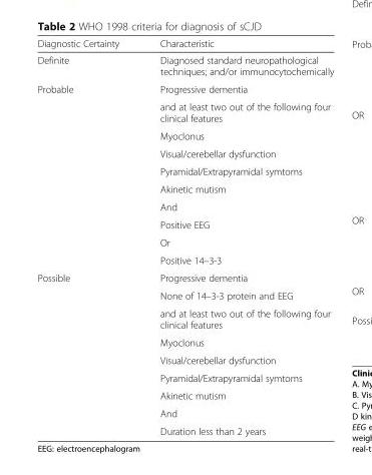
<table><thead><tr><td>Diagnostic Certainty</td><td>Characteristic</td></tr></thead><tbody><tr><td>Definite</td><td>Diagnosed standard neuropathological techniques; and/or immunocytochemically</td></tr><tr><td rowspan="10">Probable</td><td>Progressive dementia</td></tr><tr><td>and at least two out of the following four clinical features</td></tr><tr><td>Myoclonus</td></tr><tr><td>Visual/cerebellar dysfunction</td></tr><tr><td>Pyramidal/Extrapyramidal symtoms</td></tr><tr><td>Akinetic mutism</td></tr><tr><td>And</td></tr><tr><td>Positive EEG</td></tr><tr><td>Or</td></tr><tr><td>Positive 14–3-3</td></tr><tr><td rowspan="9">Possible</td><td>Progressive dementia</td></tr><tr><td>None of 14–3-3 protein and EEG</td></tr><tr><td>and at least two out of the following four clinical features</td></tr><tr><td>Myoclonus</td></tr><tr><td>Visual/cerebellar dysfunction</td></tr><tr><td>Pyramidal/Extrapyramidal symtoms</td></tr><tr><td>Akinetic mutism</td></tr><tr><td>And</td></tr><tr><td>Duration less than 2 years</td></tr></tbody></table>